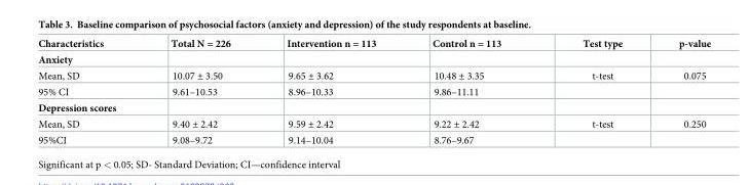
<table><thead><tr><td>Characteristics</td><td>Total N = 226</td><td>Intervention n = 113</td><td>Control n = 113</td><td>Test type</td><td>p-value</td></tr></thead><tbody><tr><td colspan="6">Anxiety</td></tr><tr><td>Mean, SD</td><td>10.07 ± 3.50</td><td>9.65 ± 3.62</td><td>10.48 ± 3.35</td><td>t-test</td><td>0.075</td></tr><tr><td>95% CI</td><td>9.61–10.53</td><td>8.96–10.33</td><td>9.86–11.11</td><td></td><td></td></tr><tr><td colspan="6">Depression scores</td></tr><tr><td>Mean, SD</td><td>9.40 ± 2.42</td><td>9.59 ± 2.42</td><td>9.22 ± 2.42</td><td>t-test</td><td>0.250</td></tr><tr><td>95%CI</td><td>9.08–9.72</td><td>9.14–10.04</td><td>8.76–9.67</td><td></td><td></td></tr></tbody></table>